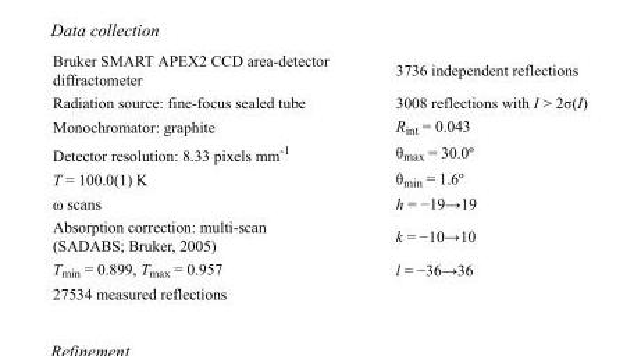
<table><tbody><tr><td>Bruker SMART APEX2 CCD area-detector diffractometer</td><td>3736 independent reflections</td></tr><tr><td>Radiation source: fine-focus sealed tube</td><td>3008 reflections with I &gt; 2σ(I)</td></tr><tr><td>Monochromator: graphite</td><td>R<sub>int</sub> = 0.043</td></tr><tr><td>Detector resolution: 8.33 pixels mm<sup>-1</sup></td><td>θ<sub>max</sub> = 30.0º</td></tr><tr><td>T = 100.0(1) K</td><td>θ<sub>min</sub> = 1.6º</td></tr><tr><td>ω scans</td><td>h = −19→19</td></tr><tr><td>Absorption correction: multi-scan (SADABS; Bruker, 2005)</td><td>k = −10→10</td></tr><tr><td>T<sub>min</sub> = 0.899, T<sub>max</sub> = 0.957</td><td>l = −36→36</td></tr><tr><td>27534 measured reflections</td><td></td></tr></tbody></table>